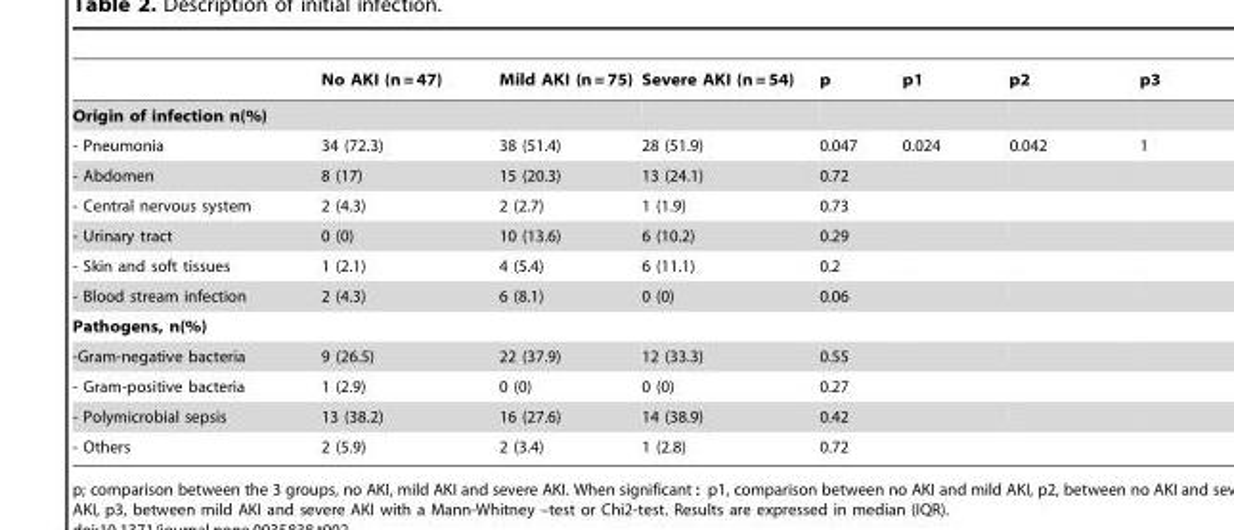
<table><thead><tr><td></td><td>No AKI (n = 47)</td><td>Mild AKI (n = 75)</td><td>Severe AKI (n = 54)</td><td>p</td><td>p1</td><td>p2</td><td>p3</td></tr></thead><tbody><tr><td colspan="8">Origin of infection n(%)</td></tr><tr><td>- Pneumonia</td><td>34 (72.3)</td><td>38 (51.4)</td><td>28 (51.9)</td><td>0.047</td><td>0.024</td><td>0.042</td><td>1</td></tr><tr><td>- Abdomen</td><td>8 (17)</td><td>15 (20.3)</td><td>13 (24.1)</td><td>0.72</td><td></td><td></td><td></td></tr><tr><td>- Central nervous system</td><td>2 (4.3)</td><td>2 (2.7)</td><td>1 (1.9)</td><td>0.73</td><td></td><td></td><td></td></tr><tr><td>- Urinary tract</td><td>0 (0)</td><td>10 (13.6)</td><td>6 (10.2)</td><td>0.29</td><td></td><td></td><td></td></tr><tr><td>- Skin and soft tissues</td><td>1 (2.1)</td><td>4 (5.4)</td><td>6 (11.1)</td><td>0.2</td><td></td><td></td><td></td></tr><tr><td>- Blood stream infection</td><td>2 (4.3)</td><td>6 (8.1)</td><td>0 (0)</td><td>0.06</td><td></td><td></td><td></td></tr><tr><td colspan="8">Pathogens, n(%)</td></tr><tr><td>-Gram-negative bacteria</td><td>9 (26.5)</td><td>22 (37.9)</td><td>12 (33.3)</td><td>0.55</td><td></td><td></td><td></td></tr><tr><td>- Gram-positive bacteria</td><td>1 (2.9)</td><td>0 (0)</td><td>0 (0)</td><td>0.27</td><td></td><td></td><td></td></tr><tr><td>- Polymicrobial sepsis</td><td>13 (38.2)</td><td>16 (27.6)</td><td>14 (38.9)</td><td>0.42</td><td></td><td></td><td></td></tr><tr><td>- Others</td><td>2 (5.9)</td><td>2 (3.4)</td><td>1 (2.8)</td><td>0.72</td><td></td><td></td><td></td></tr></tbody></table>